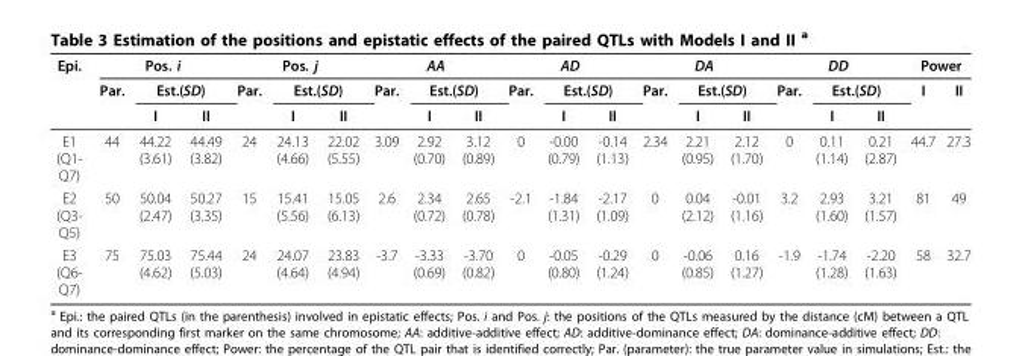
<table><thead><tr><td rowspan="3">Epi.</td><td colspan="3">Pos. i</td><td colspan="3">Pos. j</td><td colspan="3">AA</td><td colspan="3">AD</td><td colspan="3">DA</td><td colspan="3">DD</td><td colspan="2">Power</td></tr><tr><td rowspan="2">Par.</td><td colspan="2">Est.(SD)</td><td rowspan="2">Par.</td><td colspan="2">Est.(SD)</td><td rowspan="2">Par.</td><td colspan="2">Est.(SD)</td><td rowspan="2">Par.</td><td colspan="2">Est.(SD)</td><td rowspan="2">Par.</td><td colspan="2">Est.(SD)</td><td rowspan="2">Par.</td><td colspan="2">Est.(SD)</td><td rowspan="2">I</td><td rowspan="2">II</td></tr><tr><td>I</td><td>II</td><td>I</td><td>II</td><td>I</td><td>II</td><td>I</td><td>II</td><td>I</td><td>II</td><td>I</td><td>II</td></tr></thead><tbody><tr><td>E1 (Q1- Q7)</td><td>44</td><td>44.22 (3.61)</td><td>44.49 (3.82)</td><td>24</td><td>24.13 (4.66)</td><td>22.02 (5.55)</td><td>3.09</td><td>2.92 (0.70)</td><td>3.12 (0.89)</td><td>0</td><td>-0.00 (0.79)</td><td>-0.14 (1.13)</td><td>2.34</td><td>2.21 (0.95)</td><td>2.12 (1.70)</td><td>0</td><td>0.11 (1.14)</td><td>0.21 (2.87)</td><td>44.7</td><td>27.3</td></tr><tr><td>E2 (Q3- Q5)</td><td>50</td><td>50.04 (2.47)</td><td>50.27 (3.35)</td><td>15</td><td>15.41 (5.56)</td><td>15.05 (6.13)</td><td>2.6</td><td>2.34 (0.72)</td><td>2.65 (0.78)</td><td>-2.1</td><td>-1.84 (1.31)</td><td>-2.17 (1.09)</td><td>0</td><td>0.04 (2.12)</td><td>-0.01 (1.16)</td><td>3.2</td><td>2.93 (1.60)</td><td>3.21 (1.57)</td><td>81</td><td>49</td></tr><tr><td>E3 (Q6- Q7)</td><td>75</td><td>75.03 (4.62)</td><td>75.44 (5.03)</td><td>24</td><td>24.07 (4.64)</td><td>23.83 (4.94)</td><td>-3.7</td><td>-3.33 (0.69)</td><td>-3.70 (0.82)</td><td>0</td><td>-0.05 (0.80)</td><td>-0.29 (1.24)</td><td>0</td><td>-0.06 (0.85)</td><td>0.16 (1.27)</td><td>-1.9</td><td>-1.74 (1.28)</td><td>-2.20 (1.63)</td><td>58</td><td>32.7</td></tr></tbody></table>